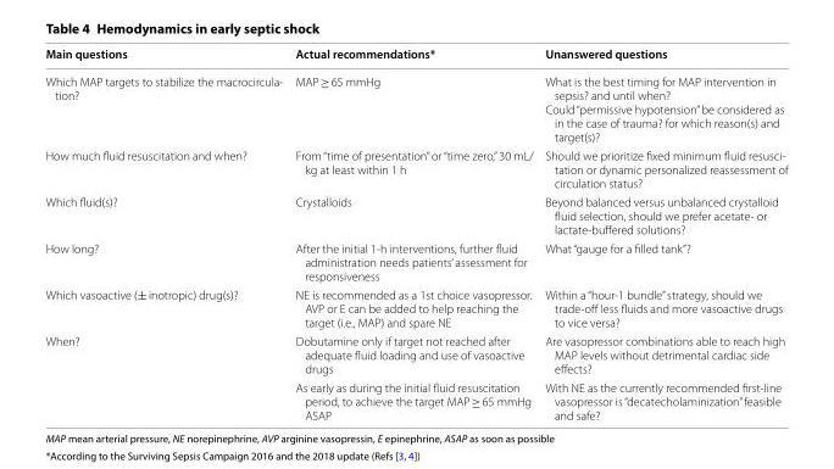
<table><thead><tr><td>Main questions</td><td>Actual recommendations*</td><td>Unanswered questions</td></tr></thead><tbody><tr><td>Which MAP targets to stabilize the macrocircula- tion?</td><td>MAP ≥ 65 mmHg</td><td>What is the best timing for MAP intervention in sepsis? and until when? Could “permissive hypotension” be considered as in the case of trauma? for which reason(s) and target(s)?</td></tr><tr><td>How much fluid resuscitation and when?</td><td>From “time of presentation” or “time zero,” 30 mL/ kg at least within 1 h</td><td>Should we prioritize fixed minimum fluid resusci- tation or dynamic personalized reassessment of circulation status?</td></tr><tr><td>Which fluid(s)?</td><td>Crystalloids</td><td>Beyond balanced versus unbalanced crystalloid fluid selection, should we prefer acetate- or lactate-buffered solutions?</td></tr><tr><td>How long?</td><td>After the initial 1-h interventions, further fluid administration needs patients’ assessment for responsiveness</td><td>What “gauge for a filled tank”?</td></tr><tr><td>Which vasoactive (± inotropic) drug(s)?</td><td>NE is recommended as a 1st choice vasopressor. AVP or E can be added to help reaching the target (i.e., MAP) and spare NE</td><td>Within a “hour-1 bundle” strategy, should we trade-off less fluids and more vasoactive drugs to vice versa?</td></tr><tr><td rowspan="2">When?</td><td>Dobutamine only if target not reached after adequate fluid loading and use of vasoactive drugs</td><td>Are vasopressor combinations able to reach high MAP levels without detrimental cardiac side effects?</td></tr><tr><td>As early as during the initial fluid resuscitation period, to achieve the target MAP ≥ 65 mmHg ASAP</td><td>With NE as the currently recommended first-line vasopressor is “decatecholaminization” feasible and safe?</td></tr></tbody></table>